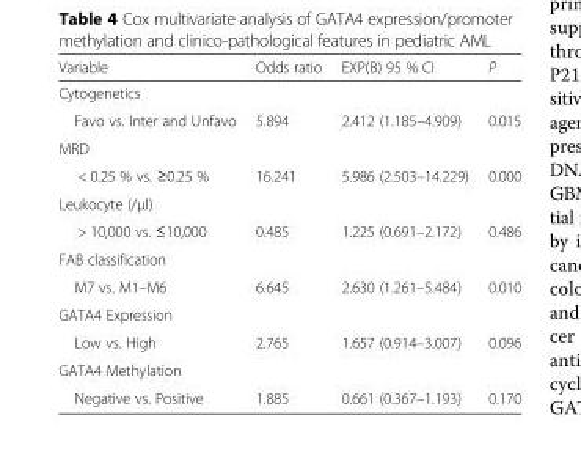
<table><thead><tr><td>Variable</td><td>Odds ratio</td><td>EXP(B) 95 % CI</td><td>P</td></tr></thead><tbody><tr><td colspan="4">Cytogenetics</td></tr><tr><td>Favo vs. Inter and Unfavo</td><td>5.894</td><td>2.412 (1.185–4.909)</td><td>0.015</td></tr><tr><td colspan="4">MRD</td></tr><tr><td>&lt; 0.25 % vs. ≥0.25 %</td><td>16.241</td><td>5.986 (2.503–14.229)</td><td>0.000</td></tr><tr><td colspan="4">Leukocyte (/μl)</td></tr><tr><td>&gt; 10,000 vs. ≤10,000</td><td>0.485</td><td>1.225 (0.691–2.172)</td><td>0.486</td></tr><tr><td colspan="4">FAB classification</td></tr><tr><td>M7 vs. M1–M6</td><td>6.645</td><td>2.630 (1.261–5.484)</td><td>0.010</td></tr><tr><td colspan="4">GATA4 Expression</td></tr><tr><td>Low vs. High</td><td>2.765</td><td>1.657 (0.914–3.007)</td><td>0.096</td></tr><tr><td colspan="4">GATA4 Methylation</td></tr><tr><td>Negative vs. Positive</td><td>1.885</td><td>0.661 (0.367–1.193)</td><td>0.170</td></tr></tbody></table>